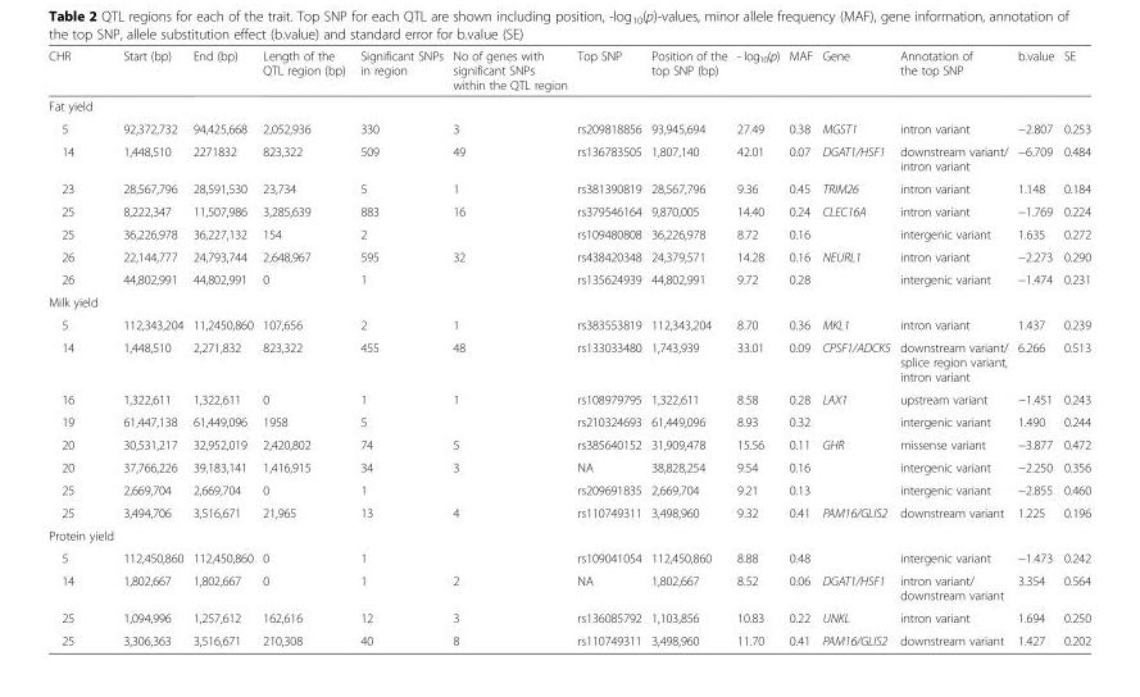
<table><thead><tr><td>CHR</td><td>Start (bp)</td><td>End (bp)</td><td>Length of the QTL region (bp)</td><td>Significant SNPs in region</td><td>No of genes with significant SNPs within the QTL region</td><td>Top SNP</td><td>Position of the top SNP (bp)</td><td>- log<sub>10</sub>(p)</td><td>MAF</td><td>Gene</td><td>Annotation of the top SNP</td><td>b.value</td><td>SE</td></tr></thead><tbody><tr><td colspan="14">Fat yield</td></tr><tr><td>5</td><td>92,372,732</td><td>94,425,668</td><td>2,052,936</td><td>330</td><td>3</td><td>rs209818856</td><td>93,945,694</td><td>27.49</td><td>0.38</td><td>MGST1</td><td>intron variant</td><td>−2.807</td><td>0.253</td></tr><tr><td>14</td><td>1,448,510</td><td>2271832</td><td>823,322</td><td>509</td><td>49</td><td>rs136783505</td><td>1,807,140</td><td>42.01</td><td>0.07</td><td>DGAT1/HSF1</td><td>downstream variant/ intron variant</td><td>−6.709</td><td>0.484</td></tr><tr><td>23</td><td>28,567,796</td><td>28,591,530</td><td>23,734</td><td>5</td><td>1</td><td>rs381390819</td><td>28,567,796</td><td>9.36</td><td>0.45</td><td>TRIM26</td><td>intron variant</td><td>1.148</td><td>0.184</td></tr><tr><td>25</td><td>8,222,347</td><td>11,507,986</td><td>3,285,639</td><td>883</td><td>16</td><td>rs379546164</td><td>9,870,005</td><td>14.40</td><td>0.24</td><td>CLEC16A</td><td>intron variant</td><td>−1.769</td><td>0.224</td></tr><tr><td>25</td><td>36,226,978</td><td>36,227,132</td><td>154</td><td>2</td><td></td><td>rs109480808</td><td>36,226,978</td><td>8.72</td><td>0.16</td><td></td><td>intergenic variant</td><td>1.635</td><td>0.272</td></tr><tr><td>26</td><td>22,144,777</td><td>24,793,744</td><td>2,648,967</td><td>595</td><td>32</td><td>rs438420348</td><td>24,379,571</td><td>14.28</td><td>0.16</td><td>NEURL1</td><td>intron variant</td><td>−2.273</td><td>0.290</td></tr><tr><td>26</td><td>44,802,991</td><td>44,802,991</td><td>0</td><td>1</td><td></td><td>rs135624939</td><td>44,802,991</td><td>9.72</td><td>0.28</td><td></td><td>intergenic variant</td><td>−1.474</td><td>0.231</td></tr><tr><td colspan="14">Milk yield</td></tr><tr><td>5</td><td>112,343,204</td><td>11,2450,860</td><td>107,656</td><td>2</td><td>1</td><td>rs383553819</td><td>112,343,204</td><td>8.70</td><td>0.36</td><td>MKL1</td><td>intron variant</td><td>1.437</td><td>0.239</td></tr><tr><td>14</td><td>1,448,510</td><td>2,271,832</td><td>823,322</td><td>455</td><td>48</td><td>rs133033480</td><td>1,743,939</td><td>33.01</td><td>0.09</td><td>CPSF1/ADCK5</td><td>downstream variant/ splice region variant, intron variant</td><td>6.266</td><td>0.513</td></tr><tr><td>16</td><td>1,322,611</td><td>1,322,611</td><td>0</td><td>1</td><td>1</td><td>rs108979795</td><td>1,322,611</td><td>8.58</td><td>0.28</td><td>LAX1</td><td>upstream variant</td><td>−1.451</td><td>0.243</td></tr><tr><td>19</td><td>61,447,138</td><td>61,449,096</td><td>1958</td><td>5</td><td></td><td>rs210324693</td><td>61,449,096</td><td>8.93</td><td>0.32</td><td></td><td>intergenic variant</td><td>1.490</td><td>0.244</td></tr><tr><td>20</td><td>30,531,217</td><td>32,952,019</td><td>2,420,802</td><td>74</td><td>5</td><td>rs385640152</td><td>31,909,478</td><td>15.56</td><td>0.11</td><td>GHR</td><td>missense variant</td><td>−3.877</td><td>0.472</td></tr><tr><td>20</td><td>37,766,226</td><td>39,183,141</td><td>1,416,915</td><td>34</td><td>3</td><td>NA</td><td>38,828,254</td><td>9.54</td><td>0.16</td><td></td><td>intergenic variant</td><td>−2.250</td><td>0.356</td></tr><tr><td>25</td><td>2,669,704</td><td>2,669,704</td><td>0</td><td>1</td><td></td><td>rs209691835</td><td>2,669,704</td><td>9.21</td><td>0.13</td><td></td><td>intergenic variant</td><td>−2.855</td><td>0.460</td></tr><tr><td>25</td><td>3,494,706</td><td>3,516,671</td><td>21,965</td><td>13</td><td>4</td><td>rs110749311</td><td>3,498,960</td><td>9.32</td><td>0.41</td><td>PAM16/GLIS2</td><td>downstream variant</td><td>1.225</td><td>0.196</td></tr><tr><td colspan="14">Protein yield</td></tr><tr><td>5</td><td>112,450,860</td><td>112,450,860</td><td>0</td><td>1</td><td></td><td>rs109041054</td><td>112,450,860</td><td>8.88</td><td>0.48</td><td></td><td>intergenic variant</td><td>−1.473</td><td>0.242</td></tr><tr><td>14</td><td>1,802,667</td><td>1,802,667</td><td>0</td><td>1</td><td>2</td><td>NA</td><td>1,802,667</td><td>8.52</td><td>0.06</td><td>DGAT1/HSF1</td><td>intron variant/ downstream variant</td><td>3.354</td><td>0.564</td></tr><tr><td>25</td><td>1,094,996</td><td>1,257,612</td><td>162,616</td><td>12</td><td>3</td><td>rs136085792</td><td>1,103,856</td><td>10.83</td><td>0.22</td><td>UNKL</td><td>intron variant</td><td>1.694</td><td>0.250</td></tr><tr><td>25</td><td>3,306,363</td><td>3,516,671</td><td>210,308</td><td>40</td><td>8</td><td>rs110749311</td><td>3,498,960</td><td>11.70</td><td>0.41</td><td>PAM16/GLIS2</td><td>downstream variant</td><td>1.427</td><td>0.202</td></tr></tbody></table>